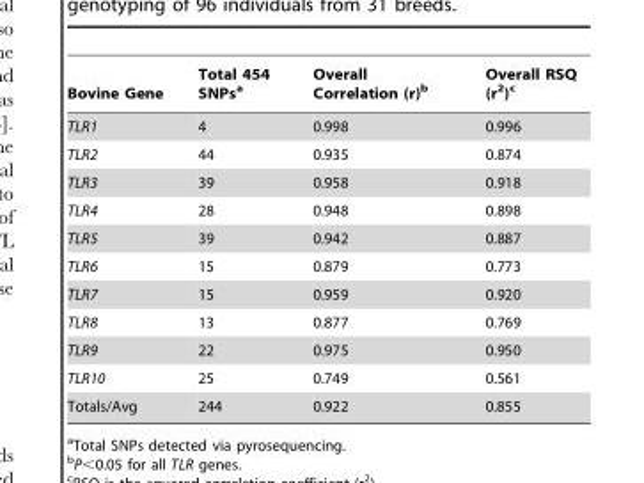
<table><thead><tr><td>Bovine Gene</td><td>Total 454 SNPs<sup>a</sup></td><td>Overall Correlation (r)<sup>b</sup></td><td>Overall RSQ (r<sup>2</sup>)<sup>c</sup></td></tr></thead><tbody><tr><td>TLR1</td><td>4</td><td>0.998</td><td>0.996</td></tr><tr><td>TLR2</td><td>44</td><td>0.935</td><td>0.874</td></tr><tr><td>TLR3</td><td>39</td><td>0.958</td><td>0.918</td></tr><tr><td>TLR4</td><td>28</td><td>0.948</td><td>0.898</td></tr><tr><td>TLR5</td><td>39</td><td>0.942</td><td>0.887</td></tr><tr><td>TLR6</td><td>15</td><td>0.879</td><td>0.773</td></tr><tr><td>TLR7</td><td>15</td><td>0.959</td><td>0.920</td></tr><tr><td>TLR8</td><td>13</td><td>0.877</td><td>0.769</td></tr><tr><td>TLR9</td><td>22</td><td>0.975</td><td>0.950</td></tr><tr><td>TLR10</td><td>25</td><td>0.749</td><td>0.561</td></tr><tr><td>Totals/Avg</td><td>244</td><td>0.922</td><td>0.855</td></tr></tbody></table>